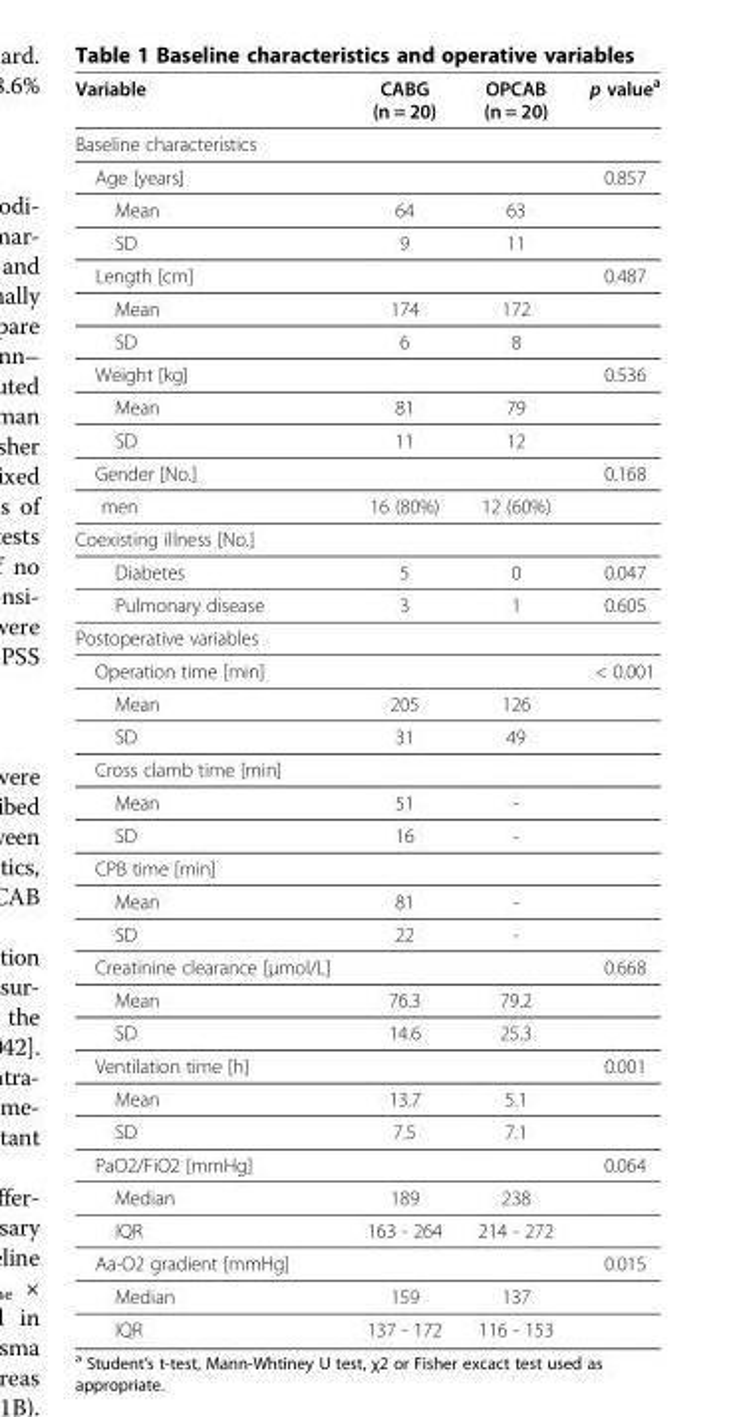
<table><thead><tr><td>Variable</td><td>CABG (n = 20)</td><td>OPCAB (n = 20)</td><td>p value<sup>a</sup></td></tr></thead><tbody><tr><td colspan="4">Baseline characteristics</td></tr><tr><td>Age [years]</td><td></td><td></td><td>0.857</td></tr><tr><td>Mean</td><td>64</td><td>63</td><td></td></tr><tr><td>SD</td><td>9</td><td>11</td><td></td></tr><tr><td>Length [cm]</td><td></td><td></td><td>0.487</td></tr><tr><td>Mean</td><td>174</td><td>172</td><td></td></tr><tr><td>SD</td><td>6</td><td>8</td><td></td></tr><tr><td>Weight [kg]</td><td></td><td></td><td>0.536</td></tr><tr><td>Mean</td><td>81</td><td>79</td><td></td></tr><tr><td>SD</td><td>11</td><td>12</td><td></td></tr><tr><td>Gender [No.]</td><td></td><td></td><td>0.168</td></tr><tr><td>men</td><td>16 (80%)</td><td>12 (60%)</td><td></td></tr><tr><td colspan="4">Coexisting illness [No.]</td></tr><tr><td>Diabetes</td><td>5</td><td>0</td><td>0.047</td></tr><tr><td>Pulmonary disease</td><td>3</td><td>1</td><td>0.605</td></tr><tr><td colspan="4">Postoperative variables</td></tr><tr><td>Operation time [min]</td><td></td><td></td><td>&lt; 0.001</td></tr><tr><td>Mean</td><td>205</td><td>126</td><td></td></tr><tr><td>SD</td><td>31</td><td>49</td><td></td></tr><tr><td colspan="4">Cross clamb time [min]</td></tr><tr><td>Mean</td><td>51</td><td>-</td><td></td></tr><tr><td>SD</td><td>16</td><td>-</td><td></td></tr><tr><td colspan="4">CPB time [min]</td></tr><tr><td>Mean</td><td>81</td><td>-</td><td></td></tr><tr><td>SD</td><td>22</td><td>-</td><td></td></tr><tr><td>Creatinine clearance [μmol/L]</td><td></td><td></td><td>0.668</td></tr><tr><td>Mean</td><td>76.3</td><td>79.2</td><td></td></tr><tr><td>SD</td><td>14.6</td><td>25.3</td><td></td></tr><tr><td>Ventilation time [h]</td><td></td><td></td><td>0.001</td></tr><tr><td>Mean</td><td>13.7</td><td>5.1</td><td></td></tr><tr><td>SD</td><td>7.5</td><td>7.1</td><td></td></tr><tr><td>PaO2/FiO2 [mmHg]</td><td></td><td></td><td>0.064</td></tr><tr><td>Median</td><td>189</td><td>238</td><td></td></tr><tr><td>IQR</td><td>163 - 264</td><td>214 - 272</td><td></td></tr><tr><td>Aa-O2 gradient [mmHg]</td><td></td><td></td><td>0.015</td></tr><tr><td>Median</td><td>159</td><td>137</td><td></td></tr><tr><td>IQR</td><td>137 - 172</td><td>116 - 153</td><td></td></tr></tbody></table>